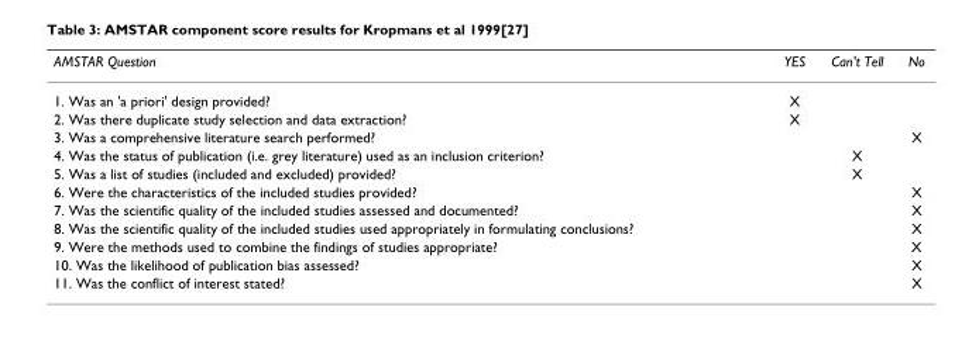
<table><thead><tr><td>AMSTAR Question</td><td>YES</td><td>Can&#x27;t Tell</td><td>No</td></tr></thead><tbody><tr><td>1. Was an &#x27;a priori&#x27; design provided?</td><td>X</td><td></td><td></td></tr><tr><td>2. Was there duplicate study selection and data extraction?</td><td>X</td><td></td><td></td></tr><tr><td>3. Was a comprehensive literature search performed?</td><td></td><td></td><td>X</td></tr><tr><td>4. Was the status of publication (i.e. grey literature) used as an inclusion criterion?</td><td></td><td>X</td><td></td></tr><tr><td>5. Was a list of studies (included and excluded) provided?</td><td></td><td>X</td><td></td></tr><tr><td>6. Were the characteristics of the included studies provided?</td><td></td><td></td><td>X</td></tr><tr><td>7. Was the scientific quality of the included studies assessed and documented?</td><td></td><td></td><td>X</td></tr><tr><td>8. Was the scientific quality of the included studies used appropriately in formulating conclusions?</td><td></td><td></td><td>X</td></tr><tr><td>9. Were the methods used to combine the findings of studies appropriate?</td><td></td><td></td><td>X</td></tr><tr><td>10. Was the likelihood of publication bias assessed?</td><td></td><td></td><td>X</td></tr><tr><td>11. Was the conflict of interest stated?</td><td></td><td></td><td>X</td></tr></tbody></table>